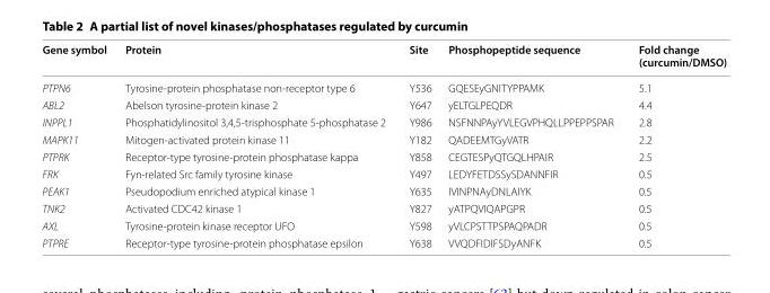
<table><thead><tr><td>Gene symbol</td><td>Protein</td><td>Site</td><td>Phosphopeptide sequence</td><td>Fold change (curcumin/DMSO)</td></tr></thead><tbody><tr><td>PTPN6</td><td>Tyrosine-protein phosphatase non-receptor type 6</td><td>Y536</td><td>GQESEyGNITYPPAMK</td><td>5.1</td></tr><tr><td>ABL2</td><td>Abelson tyrosine-protein kinase 2</td><td>Y647</td><td>yELTGLPEQDR</td><td>4.4</td></tr><tr><td>INPPL1</td><td>Phosphatidylinositol 3,4,5-trisphosphate 5-phosphatase 2</td><td>Y986</td><td>NSFNNPAyYVLEGVPHQLLPPEPPSPAR</td><td>2.8</td></tr><tr><td>MAPK11</td><td>Mitogen-activated protein kinase 11</td><td>Y182</td><td>QADEEMTGyVATR</td><td>2.2</td></tr><tr><td>PTPRK</td><td>Receptor-type tyrosine-protein phosphatase kappa</td><td>Y858</td><td>CEGTESPyQTGQLHPAIR</td><td>2.5</td></tr><tr><td>FRK</td><td>Fyn-related Src family tyrosine kinase</td><td>Y497</td><td>LEDYFETDSSySDANNFIR</td><td>0.5</td></tr><tr><td>PEAK1</td><td>Pseudopodium enriched atypical kinase 1</td><td>Y635</td><td>IVINPNAyDNLAIYK</td><td>0.5</td></tr><tr><td>TNK2</td><td>Activated CDC42 kinase 1</td><td>Y827</td><td>yATPQVIQAPGPR</td><td>0.5</td></tr><tr><td>AXL</td><td>Tyrosine-protein kinase receptor UFO</td><td>Y598</td><td>yVLCPSTTPSPAQPADR</td><td>0.5</td></tr><tr><td>PTPRE</td><td>Receptor-type tyrosine-protein phosphatase epsilon</td><td>Y638</td><td>VVQDFIDIFSDyANFK</td><td>0.5</td></tr></tbody></table>